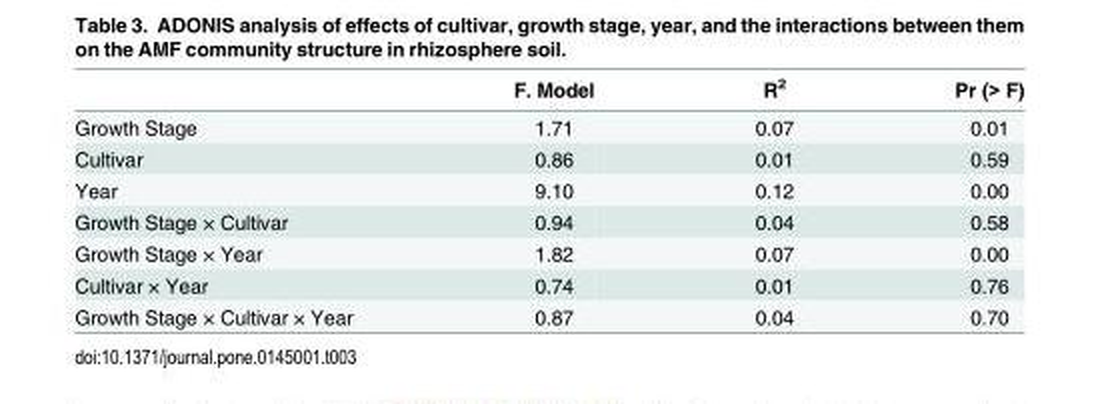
<table><thead><tr><td></td><td>F. Model</td><td>R<sup>2</sup></td><td>Pr (&gt; F)</td></tr></thead><tbody><tr><td>Growth Stage</td><td>1.71</td><td>0.07</td><td>0.01</td></tr><tr><td>Cultivar</td><td>0.86</td><td>0.01</td><td>0.59</td></tr><tr><td>Year</td><td>9.10</td><td>0.12</td><td>0.00</td></tr><tr><td>Growth Stage × Cultivar</td><td>0.94</td><td>0.04</td><td>0.58</td></tr><tr><td>Growth Stage × Year</td><td>1.82</td><td>0.07</td><td>0.00</td></tr><tr><td>Cultivar × Year</td><td>0.74</td><td>0.01</td><td>0.76</td></tr><tr><td>Growth Stage × Cultivar × Year</td><td>0.87</td><td>0.04</td><td>0.70</td></tr></tbody></table>